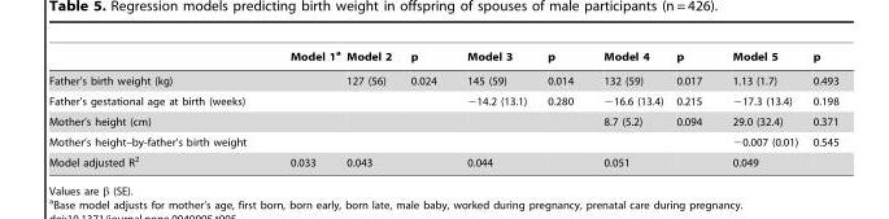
<table><thead><tr><td></td><td>Model 1<sup>a</sup></td><td>Model 2</td><td>p</td><td>Model 3</td><td>p</td><td>Model 4</td><td>p</td><td>Model 5</td><td>p</td></tr></thead><tbody><tr><td>Father’s birth weight (kg)</td><td></td><td>127 (56)</td><td>0.024</td><td>145 (59)</td><td>0.014</td><td>132 (59)</td><td>0.017</td><td>1.13 (1.7)</td><td>0.493</td></tr><tr><td>Father’s gestational age at birth (weeks)</td><td></td><td></td><td></td><td>−14.2 (13.1)</td><td>0.280</td><td>−16.6 (13.4)</td><td>0.215</td><td>−17.3 (13.4)</td><td>0.198</td></tr><tr><td>Mother’s height (cm)</td><td></td><td></td><td></td><td></td><td></td><td>8.7 (5.2)</td><td>0.094</td><td>29.0 (32.4)</td><td>0.371</td></tr><tr><td>Mother’s height–by-father’s birth weight</td><td></td><td></td><td></td><td></td><td></td><td></td><td></td><td>−0.007 (0.01)</td><td>0.545</td></tr><tr><td>Model adjusted R<sup>2</sup></td><td>0.033</td><td>0.043</td><td></td><td>0.044</td><td></td><td>0.051</td><td></td><td>0.049</td><td></td></tr></tbody></table>